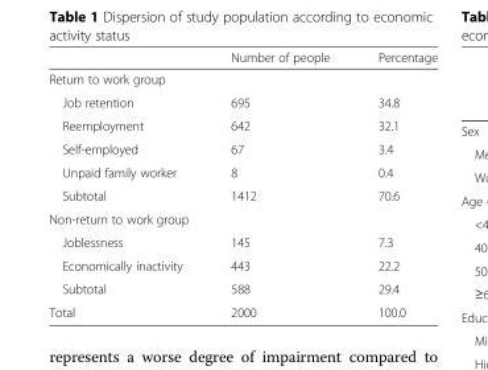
<table><thead><tr><td></td><td>Number of people</td><td>Percentage</td></tr></thead><tbody><tr><td colspan="3">Return to work group</td></tr><tr><td>Job retention</td><td>695</td><td>34.8</td></tr><tr><td>Reemployment</td><td>642</td><td>32.1</td></tr><tr><td>Self-employed</td><td>67</td><td>3.4</td></tr><tr><td>Unpaid family worker</td><td>8</td><td>0.4</td></tr><tr><td>Subtotal</td><td>1412</td><td>70.6</td></tr><tr><td colspan="3">Non-return to work group</td></tr><tr><td>Joblessness</td><td>145</td><td>7.3</td></tr><tr><td>Economically inactivity</td><td>443</td><td>22.2</td></tr><tr><td>Subtotal</td><td>588</td><td>29.4</td></tr><tr><td>Total</td><td>2000</td><td>100.0</td></tr></tbody></table>